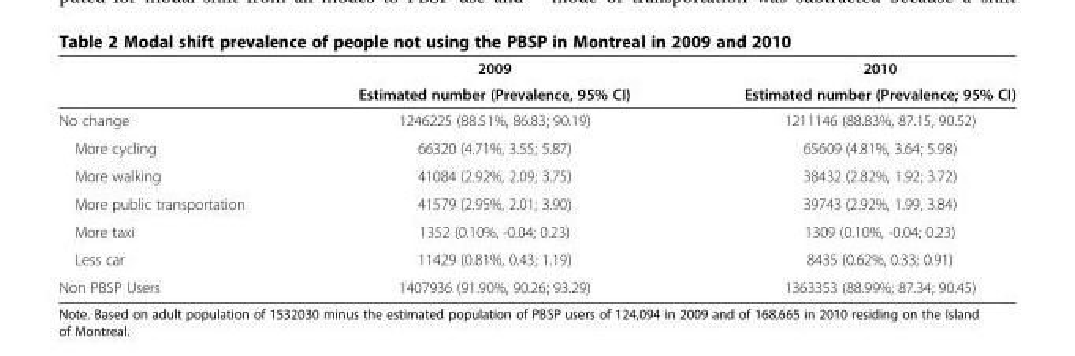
<table><thead><tr><td rowspan="2"></td><td rowspan="2">2009 Estimated number (Prevalence, 95% CI)</td><td rowspan="2">2010 Estimated number (Prevalence; 95% CI)</td></tr><tr></tr></thead><tbody><tr><td>No change</td><td>1246225 (88.51%, 86.83; 90.19)</td><td>1211146 (88.83%, 87.15, 90.52)</td></tr><tr><td>More cycling</td><td>66320 (4.71%, 3.55; 5.87)</td><td>65609 (4.81%, 3.64; 5.98)</td></tr><tr><td>More walking</td><td>41084 (2.92%, 2.09; 3.75)</td><td>38432 (2.82%, 1.92; 3.72)</td></tr><tr><td>More public transportation</td><td>41579 (2.95%, 2.01; 3.90)</td><td>39743 (2.92%, 1.99, 3.84)</td></tr><tr><td>More taxi</td><td>1352 (0.10%, -0.04; 0.23)</td><td>1309 (0.10%, -0.04; 0.23)</td></tr><tr><td>Less car</td><td>11429 (0.81%, 0.43; 1.19)</td><td>8435 (0.62%, 0.33; 0.91)</td></tr><tr><td>Non PBSP Users</td><td>1407936 (91.90%, 90.26; 93.29)</td><td>1363353 (88.99%; 87.34; 90.45)</td></tr></tbody></table>